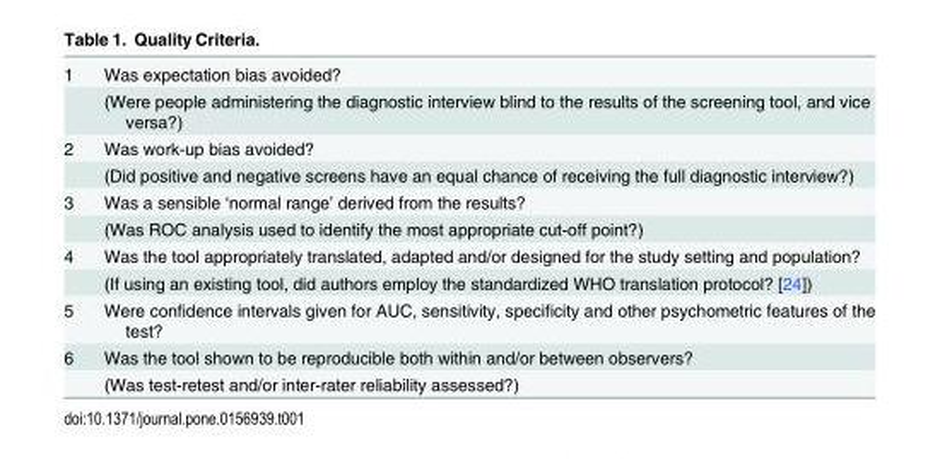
<table><tbody><tr><td rowspan="2">1</td><td>Was expectation bias avoided?</td></tr><tr><td>(Were people administering the diagnostic interview blind to the results of the screening tool, and vice versa?)</td></tr><tr><td rowspan="2">2</td><td>Was work-up bias avoided?</td></tr><tr><td>(Did positive and negative screens have an equal chance of receiving the full diagnostic interview?)</td></tr><tr><td rowspan="2">3</td><td>Was a sensible ‘normal range’ derived from the results?</td></tr><tr><td>(Was ROC analysis used to identify the most appropriate cut-off point?)</td></tr><tr><td rowspan="2">4</td><td>Was the tool appropriately translated, adapted and/or designed for the study setting and population?</td></tr><tr><td>(If using an existing tool, did authors employ the standardized WHO translation protocol? [24])</td></tr><tr><td>5</td><td>Were confidence intervals given for AUC, sensitivity, specificity and other psychometric features of the test?</td></tr><tr><td rowspan="2">6</td><td>Was the tool shown to be reproducible both within and/or between observers?</td></tr><tr><td>(Was test-retest and/or inter-rater reliability assessed?)</td></tr></tbody></table>